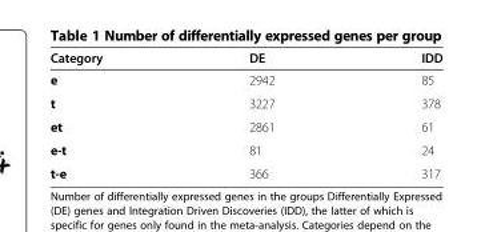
<table><thead><tr><td>Category</td><td>DE</td><td>IDD</td></tr></thead><tbody><tr><td>e</td><td>2942</td><td>85</td></tr><tr><td>t</td><td>3227</td><td>378</td></tr><tr><td>et</td><td>2861</td><td>61</td></tr><tr><td>e-t</td><td>81</td><td>24</td></tr><tr><td>t-e</td><td>366</td><td>317</td></tr></tbody></table>